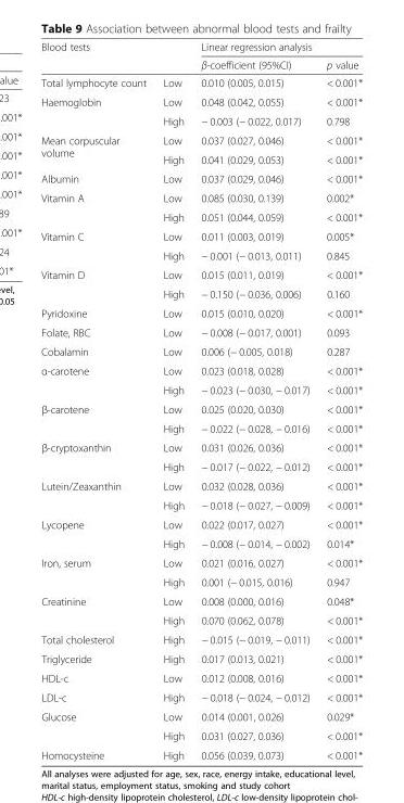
<table><thead><tr><td rowspan="2" colspan="2">Blood tests</td><td colspan="2">Linear regression analysis</td></tr><tr><td rowspan="2">β-coefficient (95%CI) 0.010 (0.005, 0.015)</td><td rowspan="2">p value &lt; 0.001*</td></tr><tr><td>Total lymphocyte count</td><td>Low</td></tr></thead><tbody><tr><td rowspan="2">Haemoglobin</td><td>Low</td><td>0.048 (0.042, 0.055)</td><td>&lt; 0.001*</td></tr><tr><td>High</td><td>− 0.003 (− 0.022, 0.017)</td><td>0.798</td></tr><tr><td rowspan="2">Mean corpuscular volume</td><td>Low</td><td>0.037 (0.027, 0.046)</td><td>&lt; 0.001*</td></tr><tr><td>High</td><td>0.041 (0.029, 0.053)</td><td>&lt; 0.001*</td></tr><tr><td>Albumin</td><td>Low</td><td>0.037 (0.029, 0.046)</td><td>&lt; 0.001*</td></tr><tr><td rowspan="2">Vitamin A</td><td>Low</td><td>0.085 (0.030, 0.139)</td><td>0.002*</td></tr><tr><td>High</td><td>0.051 (0.044, 0.059)</td><td>&lt; 0.001*</td></tr><tr><td rowspan="2">Vitamin C</td><td>Low</td><td>0.011 (0.003, 0.019)</td><td>0.005*</td></tr><tr><td>High</td><td>− 0.001 (− 0.013, 0.011)</td><td>0.845</td></tr><tr><td rowspan="2">Vitamin D</td><td>Low</td><td>0.015 (0.011, 0.019)</td><td>&lt; 0.001*</td></tr><tr><td>High</td><td>− 0.150 (− 0.036, 0.006)</td><td>0.160</td></tr><tr><td>Pyridoxine</td><td>Low</td><td>0.015 (0.010, 0.020)</td><td>&lt; 0.001*</td></tr><tr><td>Folate, RBC</td><td>Low</td><td>− 0.008 (− 0.017, 0.001)</td><td>0.093</td></tr><tr><td>Cobalamin</td><td>Low</td><td>0.006 (− 0.005, 0.018)</td><td>0.287</td></tr><tr><td rowspan="2">α-carotene</td><td>Low</td><td>0.023 (0.018, 0.028)</td><td>&lt; 0.001*</td></tr><tr><td>High</td><td>− 0.023 (− 0.030, − 0.017)</td><td>&lt; 0.001*</td></tr><tr><td rowspan="2">β-carotene</td><td>Low</td><td>0.025 (0.020, 0.030)</td><td>&lt; 0.001*</td></tr><tr><td>High</td><td>− 0.022 (− 0.028, − 0.016)</td><td>&lt; 0.001*</td></tr><tr><td rowspan="2">β-cryptoxanthin</td><td>Low</td><td>0.031 (0.026, 0.036)</td><td>&lt; 0.001*</td></tr><tr><td>High</td><td>− 0.017 (− 0.022, − 0.012)</td><td>&lt; 0.001*</td></tr><tr><td rowspan="2">Lutein/Zeaxanthin</td><td>Low</td><td>0.032 (0.028, 0.036)</td><td>&lt; 0.001*</td></tr><tr><td>High</td><td>− 0.018 (− 0.027, − 0.009)</td><td>&lt; 0.001*</td></tr><tr><td rowspan="2">Lycopene</td><td>Low</td><td>0.022 (0.017, 0.027)</td><td>&lt; 0.001*</td></tr><tr><td>High</td><td>− 0.008 (− 0.014, − 0.002)</td><td>0.014*</td></tr><tr><td rowspan="2">Iron, serum</td><td>Low</td><td>0.021 (0.016, 0.027)</td><td>&lt; 0.001*</td></tr><tr><td>High</td><td>0.001 (− 0.015, 0.016)</td><td>0.947</td></tr><tr><td rowspan="2">Creatinine</td><td>Low</td><td>0.008 (0.000, 0.016)</td><td>0.048*</td></tr><tr><td>High</td><td>0.070 (0.062, 0.078)</td><td>&lt; 0.001*</td></tr><tr><td>Total cholesterol</td><td>High</td><td>− 0.015 (− 0.019, − 0.011)</td><td>&lt; 0.001*</td></tr><tr><td>Triglyceride</td><td>High</td><td>0.017 (0.013, 0.021)</td><td>&lt; 0.001*</td></tr><tr><td>HDL-c</td><td>Low</td><td>0.012 (0.008, 0.016)</td><td>&lt; 0.001*</td></tr><tr><td>LDL-c</td><td>High</td><td>− 0.018 (− 0.024, − 0.012)</td><td>&lt; 0.001*</td></tr><tr><td rowspan="2">Glucose</td><td>Low</td><td>0.014 (0.001, 0.026)</td><td>0.029*</td></tr><tr><td>High</td><td>0.031 (0.027, 0.036)</td><td>&lt; 0.001*</td></tr><tr><td>Homocysteine</td><td>High</td><td>0.056 (0.039, 0.073)</td><td>&lt; 0.001*</td></tr></tbody></table>